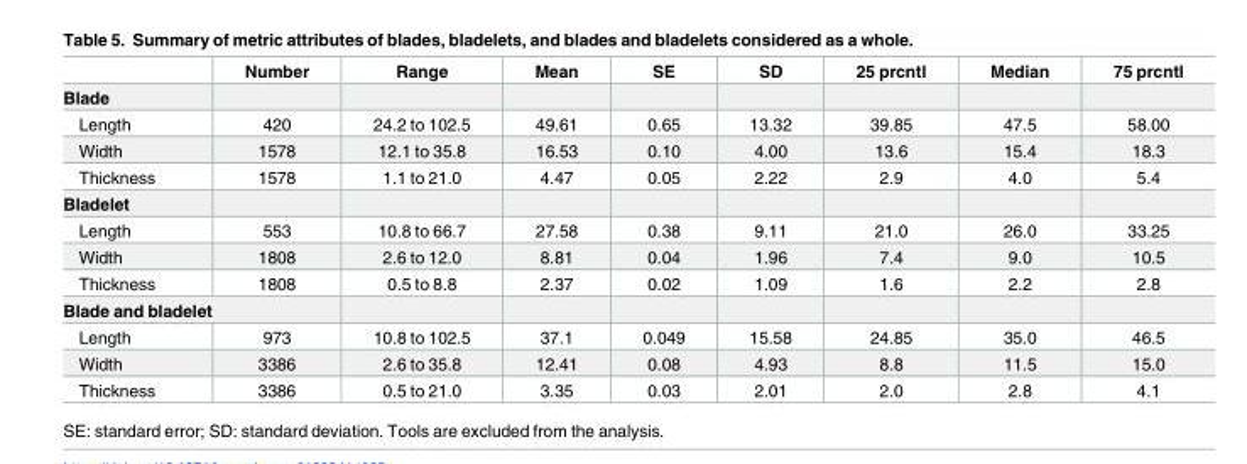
<table><thead><tr><td></td><td>Number</td><td>Range</td><td>Mean</td><td>SE</td><td>SD</td><td>25 prcntl</td><td>Median</td><td>75 prcntl</td></tr></thead><tbody><tr><td colspan="9">Blade</td></tr><tr><td>Length</td><td>420</td><td>24.2 to 102.5</td><td>49.61</td><td>0.65</td><td>13.32</td><td>39.85</td><td>47.5</td><td>58.00</td></tr><tr><td>Width</td><td>1578</td><td>12.1 to 35.8</td><td>16.53</td><td>0.10</td><td>4.00</td><td>13.6</td><td>15.4</td><td>18.3</td></tr><tr><td>Thickness</td><td>1578</td><td>1.1 to 21.0</td><td>4.47</td><td>0.05</td><td>2.22</td><td>2.9</td><td>4.0</td><td>5.4</td></tr><tr><td colspan="9">Bladelet</td></tr><tr><td>Length</td><td>553</td><td>10.8 to 66.7</td><td>27.58</td><td>0.38</td><td>9.11</td><td>21.0</td><td>26.0</td><td>33.25</td></tr><tr><td>Width</td><td>1808</td><td>2.6 to 12.0</td><td>8.81</td><td>0.04</td><td>1.96</td><td>7.4</td><td>9.0</td><td>10.5</td></tr><tr><td>Thickness</td><td>1808</td><td>0.5 to 8.8</td><td>2.37</td><td>0.02</td><td>1.09</td><td>1.6</td><td>2.2</td><td>2.8</td></tr><tr><td colspan="9">Blade and bladelet</td></tr><tr><td>Length</td><td>973</td><td>10.8 to 102.5</td><td>37.1</td><td>0.049</td><td>15.58</td><td>24.85</td><td>35.0</td><td>46.5</td></tr><tr><td>Width</td><td>3386</td><td>2.6 to 35.8</td><td>12.41</td><td>0.08</td><td>4.93</td><td>8.8</td><td>11.5</td><td>15.0</td></tr><tr><td>Thickness</td><td>3386</td><td>0.5 to 21.0</td><td>3.35</td><td>0.03</td><td>2.01</td><td>2.0</td><td>2.8</td><td>4.1</td></tr></tbody></table>